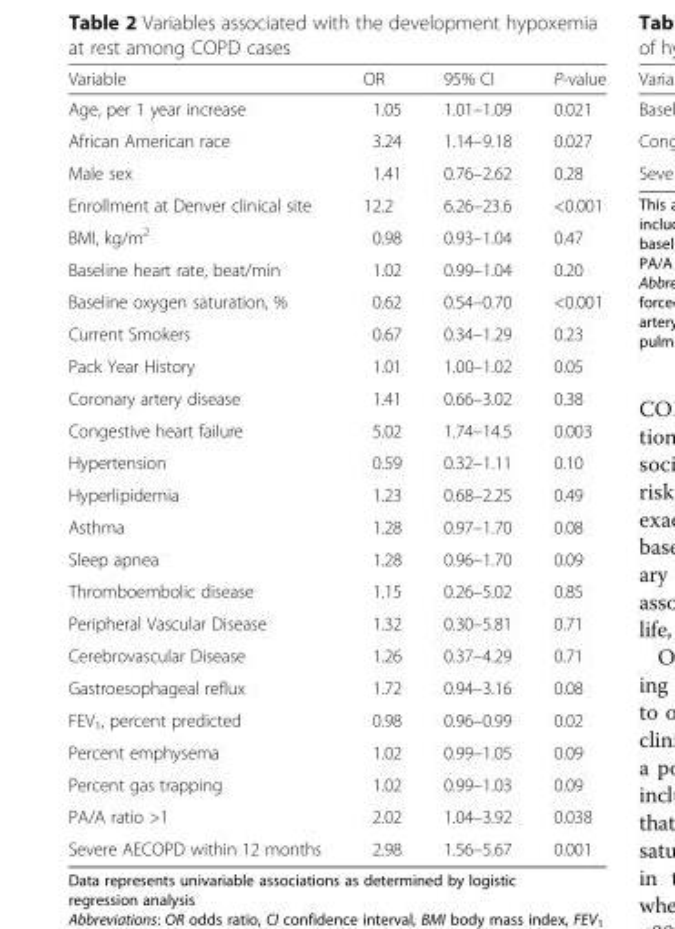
<table><thead><tr><td>Variable</td><td>OR</td><td>95% CI</td><td>P-value</td></tr></thead><tbody><tr><td>Age, per 1 year increase</td><td>1.05</td><td>1.01–1.09</td><td>0.021</td></tr><tr><td>African American race</td><td>3.24</td><td>1.14–9.18</td><td>0.027</td></tr><tr><td>Male sex</td><td>1.41</td><td>0.76–2.62</td><td>0.28</td></tr><tr><td>Enrollment at Denver clinical site</td><td>12.2</td><td>6.26–23.6</td><td>&lt;0.001</td></tr><tr><td>BMI, kg/m<sup>2</sup></td><td>0.98</td><td>0.93–1.04</td><td>0.47</td></tr><tr><td>Baseline heart rate, beat/min</td><td>1.02</td><td>0.99–1.04</td><td>0.20</td></tr><tr><td>Baseline oxygen saturation, %</td><td>0.62</td><td>0.54–0.70</td><td>&lt;0.001</td></tr><tr><td>Current Smokers</td><td>0.67</td><td>0.34–1.29</td><td>0.23</td></tr><tr><td>Pack Year History</td><td>1.01</td><td>1.00–1.02</td><td>0.05</td></tr><tr><td>Coronary artery disease</td><td>1.41</td><td>0.66–3.02</td><td>0.38</td></tr><tr><td>Congestive heart failure</td><td>5.02</td><td>1.74–14.5</td><td>0.003</td></tr><tr><td>Hypertension</td><td>0.59</td><td>0.32–1.11</td><td>0.10</td></tr><tr><td>Hyperlipidemia</td><td>1.23</td><td>0.68–2.25</td><td>0.49</td></tr><tr><td>Asthma</td><td>1.28</td><td>0.97–1.70</td><td>0.08</td></tr><tr><td>Sleep apnea</td><td>1.28</td><td>0.96–1.70</td><td>0.09</td></tr><tr><td>Thromboembolic disease</td><td>1.15</td><td>0.26–5.02</td><td>0.85</td></tr><tr><td>Peripheral Vascular Disease</td><td>1.32</td><td>0.30–5.81</td><td>0.71</td></tr><tr><td>Cerebrovascular Disease</td><td>1.26</td><td>0.37–4.29</td><td>0.71</td></tr><tr><td>Gastroesophageal reflux</td><td>1.72</td><td>0.94–3.16</td><td>0.08</td></tr><tr><td>FEV<sub>1</sub>, percent predicted</td><td>0.98</td><td>0.96–0.99</td><td>0.02</td></tr><tr><td>Percent emphysema</td><td>1.02</td><td>0.99–1.05</td><td>0.09</td></tr><tr><td>Percent gas trapping</td><td>1.02</td><td>0.99–1.03</td><td>0.09</td></tr><tr><td>PA/A ratio &gt;1</td><td>2.02</td><td>1.04–3.92</td><td>0.038</td></tr><tr><td>Severe AECOPD within 12 months</td><td>2.98</td><td>1.56–5.67</td><td>0.001</td></tr></tbody></table>